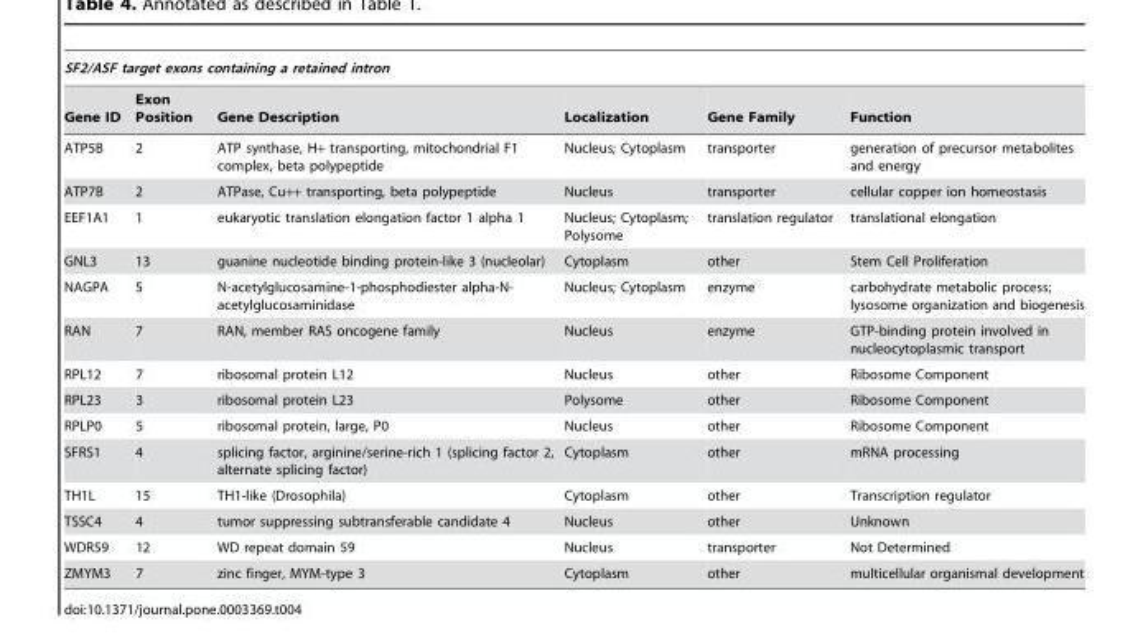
<table><thead><tr><td colspan="6">SF2/ASF target exons containing a retained intron</td></tr><tr><td>Gene ID</td><td>Exon Position</td><td>Gene Description</td><td>Localization</td><td>Gene Family</td><td>Function</td></tr></thead><tbody><tr><td>ATP5B</td><td>2</td><td>ATP synthase, H+ transporting, mitochondrial F1 complex, beta polypeptide</td><td>Nucleus; Cytoplasm</td><td>transporter</td><td>generation of precursor metabolites and energy</td></tr><tr><td>ATP7B</td><td>2</td><td>ATPase, Cu++ transporting, beta polypeptide</td><td>Nucleus</td><td>transporter</td><td>cellular copper ion homeostasis</td></tr><tr><td>EEF1A1</td><td>1</td><td>eukaryotic translation elongation factor 1 alpha 1</td><td>Nucleus; Cytoplasm; Polysome</td><td>translation regulator</td><td>translational elongation</td></tr><tr><td>GNL3</td><td>13</td><td>guanine nucleotide binding protein-like 3 (nucleolar)</td><td>Cytoplasm</td><td>other</td><td>Stem Cell Proliferation</td></tr><tr><td>NAGPA</td><td>5</td><td>N-acetylglucosamine-1-phosphodiester alpha-N- acetylglucosaminidase</td><td>Nucleus; Cytoplasm</td><td>enzyme</td><td>carbohydrate metabolic process; lysosome organization and biogenesis</td></tr><tr><td>RAN</td><td>7</td><td>RAN, member RAS oncogene family</td><td>Nucleus</td><td>enzyme</td><td>GTP-binding protein involved in nucleocytoplasmic transport</td></tr><tr><td>RPL12</td><td>7</td><td>ribosomal protein L12</td><td>Nucleus</td><td>other</td><td>Ribosome Component</td></tr><tr><td>RPL23</td><td>3</td><td>ribosomal protein L23</td><td>Polysome</td><td>other</td><td>Ribosome Component</td></tr><tr><td>RPLP0</td><td>5</td><td>ribosomal protein, large, P0</td><td>Nucleus</td><td>other</td><td>Ribosome Component</td></tr><tr><td>SFRS1</td><td>4</td><td>splicing factor, arginine/serine-rich 1 (splicing factor 2, alternate splicing factor)</td><td>Cytoplasm</td><td>other</td><td>mRNA processing</td></tr><tr><td>TH1L</td><td>15</td><td>TH1-like (Drosophila)</td><td>Cytoplasm</td><td>other</td><td>Transcription regulator</td></tr><tr><td>TSSC4</td><td>4</td><td>tumor suppressing subtransferable candidate 4</td><td>Nucleus</td><td>other</td><td>Unknown</td></tr><tr><td>WDR59</td><td>12</td><td>WD repeat domain 59</td><td>Nucleus</td><td>transporter</td><td>Not Determined</td></tr><tr><td>ZMYM3</td><td>7</td><td>zinc finger, MYM-type 3</td><td>Cytoplasm</td><td>other</td><td>multicellular organismal development</td></tr></tbody></table>